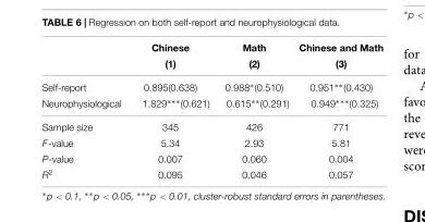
<table><thead><tr><td rowspan="2"></td><td rowspan="2">Chinese (1)</td><td rowspan="2">Math (2)</td><td rowspan="2">Chinese and Math (3)</td></tr><tr></tr></thead><tbody><tr><td>Self-report</td><td>0.895(0.638)</td><td>0.988∗(0.510)</td><td>0.951∗∗(0.430)</td></tr><tr><td>Neurophysiological</td><td>1.829∗∗∗(0.621)</td><td>0.615∗∗(0.291)</td><td>0.949∗∗∗(0.325)</td></tr><tr><td>Sample size</td><td>345</td><td>426</td><td>771</td></tr><tr><td>F-value</td><td>5.34</td><td>2.93</td><td>5.81</td></tr><tr><td>P-value</td><td>0.007</td><td>0.060</td><td>0.004</td></tr><tr><td>R<sup>2</sup></td><td>0.095</td><td>0.046</td><td>0.057</td></tr></tbody></table>